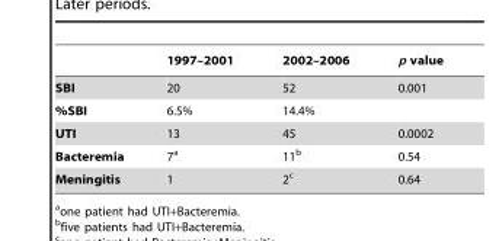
<table><thead><tr><td></td><td>1997–2001</td><td>2002–2006</td><td>p value</td></tr></thead><tbody><tr><td>SBI</td><td>20</td><td>52</td><td>0.001</td></tr><tr><td>%SBI</td><td>6.5%</td><td>14.4%</td><td></td></tr><tr><td>UTI</td><td>13</td><td>45</td><td>0.0002</td></tr><tr><td>Bacteremia</td><td>7<sup>a</sup></td><td>11<sup>b</sup></td><td>0.54</td></tr><tr><td>Meningitis</td><td>1</td><td>2<sup>c</sup></td><td>0.64</td></tr></tbody></table>